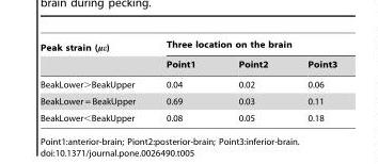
<table><thead><tr><td rowspan="2">Peak strain (me)</td><td colspan="3">Three location on the brain</td></tr><tr><td>Point1</td><td>Point2</td><td>Point3</td></tr></thead><tbody><tr><td>BeakLower&gt;BeakUpper</td><td>0.04</td><td>0.02</td><td>0.06</td></tr><tr><td>BeakLower = BeakUpper</td><td>0.69</td><td>0.03</td><td>0.11</td></tr><tr><td>BeakLower&lt;BeakUpper</td><td>0.08</td><td>0.05</td><td>0.18</td></tr></tbody></table>